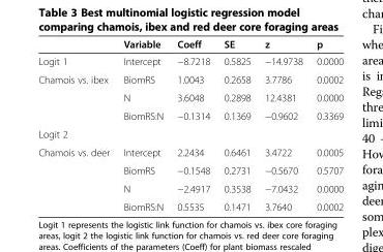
<table><thead><tr><td></td><td>Variable</td><td>Coeff</td><td>SE</td><td>z</td><td>p</td></tr></thead><tbody><tr><td>Logit 1</td><td>Intercept</td><td>−8.7218</td><td>0.5825</td><td>−14.9738</td><td>0.0000</td></tr><tr><td rowspan="3">Chamois vs. ibex</td><td>BiomRS</td><td>1.0043</td><td>0.2658</td><td>3.7786</td><td>0.0002</td></tr><tr><td>N</td><td>3.6048</td><td>0.2898</td><td>12.4381</td><td>0.0000</td></tr><tr><td>BiomRS:N</td><td>−0.1314</td><td>0.1369</td><td>−0.9602</td><td>0.3369</td></tr><tr><td colspan="6">Logit 2</td></tr><tr><td rowspan="4">Chamois vs. deer</td><td>Intercept</td><td>2.2434</td><td>0.6461</td><td>3.4722</td><td>0.0005</td></tr><tr><td>BiomRS</td><td>−0.1548</td><td>0.2731</td><td>−0.5670</td><td>0.5707</td></tr><tr><td>N</td><td>−2.4917</td><td>0.3538</td><td>−7.0432</td><td>0.0000</td></tr><tr><td>BiomRS:N</td><td>0.5535</td><td>0.1471</td><td>3.7640</td><td>0.0002</td></tr></tbody></table>